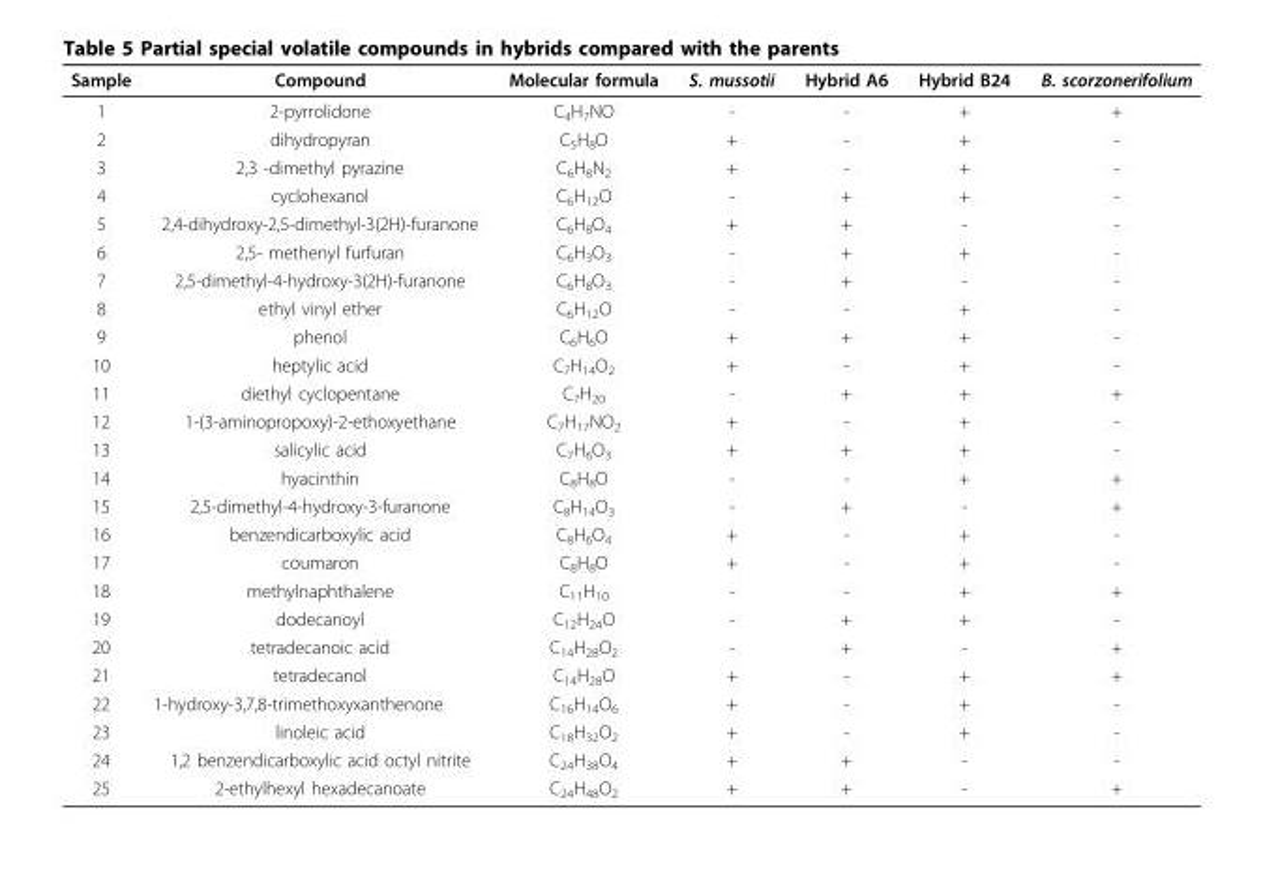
<table><thead><tr><td>Sample</td><td>Compound</td><td>Molecular formula</td><td>S. mussotii</td><td>Hybrid A6</td><td>Hybrid B24</td><td>B. scorzonerifolium</td></tr></thead><tbody><tr><td>1</td><td>2-pyrrolidone</td><td>C<sub>4</sub>H<sub>7</sub>NO</td><td>-</td><td>-</td><td>+</td><td>+</td></tr><tr><td>2</td><td>dihydropyran</td><td>C<sub>5</sub>H<sub>8</sub>O</td><td>+</td><td>-</td><td>+</td><td>-</td></tr><tr><td>3</td><td>2,3 -dimethyl pyrazine</td><td>C<sub>6</sub>H<sub>8</sub>N<sub>2</sub></td><td>+</td><td>-</td><td>+</td><td>-</td></tr><tr><td>4</td><td>cyclohexanol</td><td>C<sub>6</sub>H<sub>12</sub>O</td><td>-</td><td>+</td><td>+</td><td>-</td></tr><tr><td>5</td><td>2,4-dihydroxy-2,5-dimethyl-3(2H)-furanone</td><td>C<sub>6</sub>H<sub>8</sub>O<sub>4</sub></td><td>+</td><td>+</td><td>-</td><td>-</td></tr><tr><td>6</td><td>2,5- methenyl furfuran</td><td>C<sub>6</sub>H<sub>3</sub>O<sub>3</sub></td><td>-</td><td>+</td><td>+</td><td>-</td></tr><tr><td>7</td><td>2,5-dimethyl-4-hydroxy-3(2H)-furanone</td><td>C<sub>6</sub>H<sub>8</sub>O<sub>3</sub></td><td>-</td><td>+</td><td>-</td><td>-</td></tr><tr><td>8</td><td>ethyl vinyl ether</td><td>C<sub>6</sub>H<sub>12</sub>O</td><td>-</td><td>-</td><td>+</td><td>-</td></tr><tr><td>9</td><td>phenol</td><td>C<sub>6</sub>H<sub>6</sub>O</td><td>+</td><td>+</td><td>+</td><td>-</td></tr><tr><td>10</td><td>heptylic acid</td><td>C<sub>7</sub>H<sub>14</sub>O<sub>2</sub></td><td>+</td><td>-</td><td>+</td><td>-</td></tr><tr><td>11</td><td>diethyl cyclopentane</td><td>C<sub>7</sub>H<sub>20</sub></td><td>-</td><td>+</td><td>+</td><td>+</td></tr><tr><td>12</td><td>1-(3-aminopropoxy)-2-ethoxyethane</td><td>C<sub>7</sub>H<sub>17</sub>NO<sub>2</sub></td><td>+</td><td>-</td><td>+</td><td>-</td></tr><tr><td>13</td><td>salicylic acid</td><td>C<sub>7</sub>H<sub>6</sub>O<sub>3</sub></td><td>+</td><td>+</td><td>+</td><td>-</td></tr><tr><td>14</td><td>hyacinthin</td><td>C<sub>8</sub>H<sub>8</sub>O</td><td>-</td><td>-</td><td>+</td><td>+</td></tr><tr><td>15</td><td>2,5-dimethyl-4-hydroxy-3-furanone</td><td>C<sub>8</sub>H<sub>14</sub>O<sub>3</sub></td><td>-</td><td>+</td><td>-</td><td>+</td></tr><tr><td>16</td><td>benzendicarboxylic acid</td><td>C<sub>8</sub>H<sub>6</sub>O<sub>4</sub></td><td>+</td><td>-</td><td>+</td><td>-</td></tr><tr><td>17</td><td>coumaron</td><td>C<sub>8</sub>H<sub>8</sub>O</td><td>+</td><td>-</td><td>+</td><td>-</td></tr><tr><td>18</td><td>methylnaphthalene</td><td>C<sub>11</sub>H<sub>10</sub></td><td>-</td><td>-</td><td>+</td><td>+</td></tr><tr><td>19</td><td>dodecanoyl</td><td>C<sub>12</sub>H<sub>24</sub>O</td><td>-</td><td>+</td><td>+</td><td>-</td></tr><tr><td>20</td><td>tetradecanoic acid</td><td>C<sub>14</sub>H<sub>28</sub>O<sub>2</sub></td><td>-</td><td>+</td><td>-</td><td>+</td></tr><tr><td>21</td><td>tetradecanol</td><td>C<sub>14</sub>H<sub>28</sub>O</td><td>+</td><td>-</td><td>+</td><td>+</td></tr><tr><td>22</td><td>1-hydroxy-3,7,8-trimethoxyxanthenone</td><td>C<sub>16</sub>H<sub>14</sub>O<sub>6</sub></td><td>+</td><td>-</td><td>+</td><td>-</td></tr><tr><td>23</td><td>linoleic acid</td><td>C<sub>18</sub>H<sub>32</sub>O<sub>2</sub></td><td>+</td><td>-</td><td>+</td><td>-</td></tr><tr><td>24</td><td>1,2 benzendicarboxylic acid octyl nitrite</td><td>C<sub>24</sub>H<sub>38</sub>O<sub>4</sub></td><td>+</td><td>+</td><td>-</td><td>-</td></tr><tr><td>25</td><td>2-ethylhexyl hexadecanoate</td><td>C<sub>24</sub>H<sub>48</sub>O<sub>2</sub></td><td>+</td><td>+</td><td>-</td><td>+</td></tr></tbody></table>